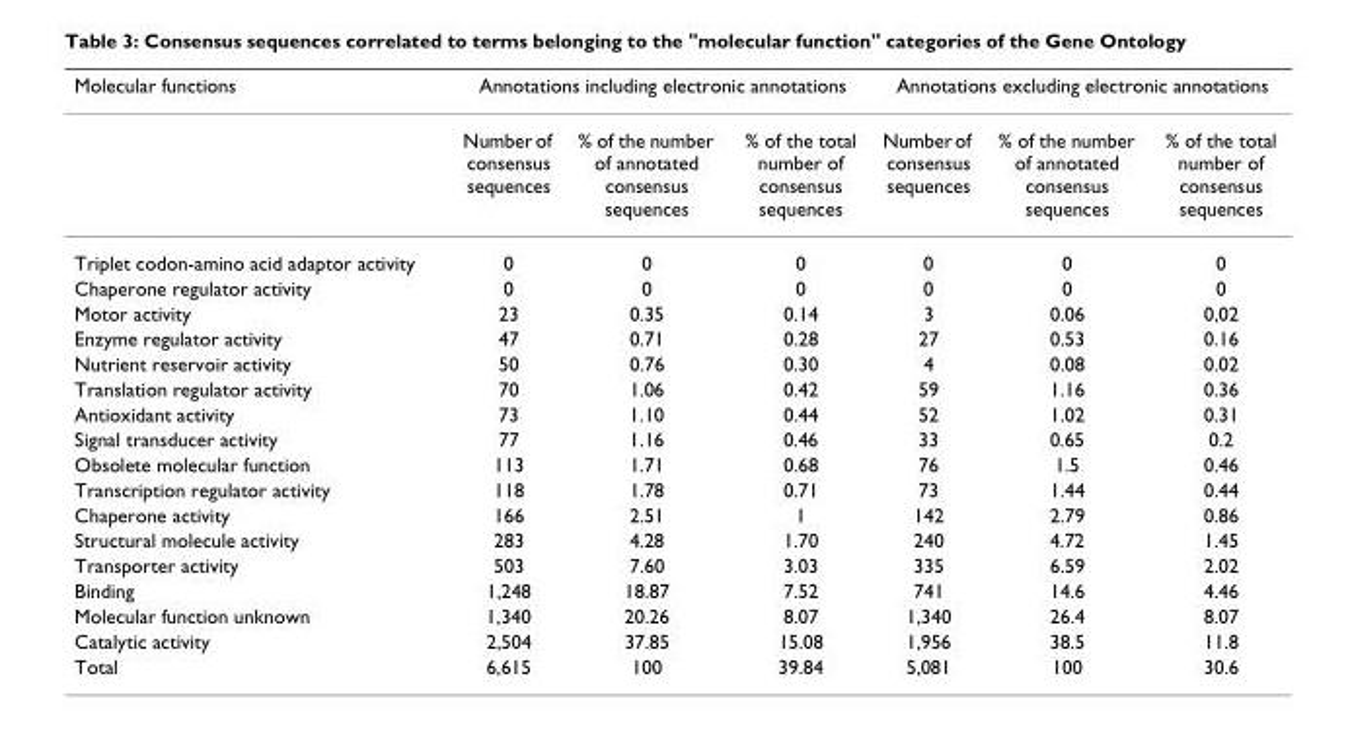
<table><thead><tr><td rowspan="2">Molecular functions</td><td colspan="3">Annotations including electronic annotations</td><td colspan="3">Annotations excluding electronic annotations</td></tr><tr><td>Number of consensus sequences</td><td>% of the number of annotated consensus sequences</td><td>% of the total number of consensus sequences</td><td>Number of consensus sequences</td><td>% of the number of annotated consensus sequences</td><td>% of the total number of consensus sequences</td></tr></thead><tbody><tr><td>Triplet codon-amino acid adaptor activity</td><td>0</td><td>0</td><td>0</td><td>0</td><td>0</td><td>0</td></tr><tr><td>Chaperone regulator activity</td><td>0</td><td>0</td><td>0</td><td>0</td><td>0</td><td>0</td></tr><tr><td>Motor activity</td><td>23</td><td>0.35</td><td>0.14</td><td>3</td><td>0.06</td><td>0,02</td></tr><tr><td>Enzyme regulator activity</td><td>47</td><td>0.71</td><td>0.28</td><td>27</td><td>0.53</td><td>0.16</td></tr><tr><td>Nutrient reservoir activity</td><td>50</td><td>0.76</td><td>0.30</td><td>4</td><td>0.08</td><td>0.02</td></tr><tr><td>Translation regulator activity</td><td>70</td><td>1.06</td><td>0.42</td><td>59</td><td>1.16</td><td>0.36</td></tr><tr><td>Antioxidant activity</td><td>73</td><td>1.10</td><td>0.44</td><td>52</td><td>1.02</td><td>0.31</td></tr><tr><td>Signal transducer activity</td><td>77</td><td>1.16</td><td>0.46</td><td>33</td><td>0.65</td><td>0.2</td></tr><tr><td>Obsolete molecular function</td><td>113</td><td>1.71</td><td>0.68</td><td>76</td><td>1.5</td><td>0.46</td></tr><tr><td>Transcription regulator activity</td><td>118</td><td>1.78</td><td>0.71</td><td>73</td><td>1.44</td><td>0.44</td></tr><tr><td>Chaperone activity</td><td>166</td><td>2.51</td><td>1</td><td>142</td><td>2.79</td><td>0.86</td></tr><tr><td>Structural molecule activity</td><td>283</td><td>4.28</td><td>1.70</td><td>240</td><td>4.72</td><td>1.45</td></tr><tr><td>Transporter activity</td><td>503</td><td>7.60</td><td>3.03</td><td>335</td><td>6.59</td><td>2.02</td></tr><tr><td>Binding</td><td>1,248</td><td>18.87</td><td>7.52</td><td>741</td><td>14.6</td><td>4.46</td></tr><tr><td>Molecular function unknown</td><td>1,340</td><td>20.26</td><td>8.07</td><td>1,340</td><td>26.4</td><td>8.07</td></tr><tr><td>Catalytic activity</td><td>2,504</td><td>37.85</td><td>15.08</td><td>1,956</td><td>38.5</td><td>11.8</td></tr><tr><td>Total</td><td>6,615</td><td>100</td><td>39.84</td><td>5,081</td><td>100</td><td>30.6</td></tr></tbody></table>